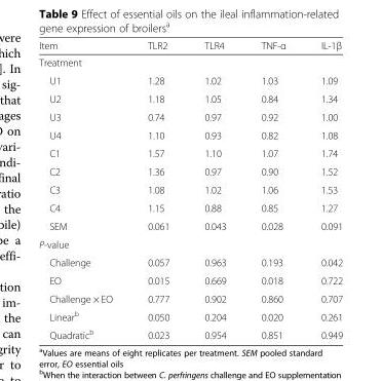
<table><thead><tr><td>Item</td><td>TLR2</td><td>TLR4</td><td>TNF-α</td><td>IL-1β</td></tr></thead><tbody><tr><td colspan="5">Treatment</td></tr><tr><td>U1</td><td>1.28</td><td>1.02</td><td>1.03</td><td>1.09</td></tr><tr><td>U2</td><td>1.18</td><td>1.05</td><td>0.84</td><td>1.34</td></tr><tr><td>U3</td><td>0.74</td><td>0.97</td><td>0.92</td><td>1.00</td></tr><tr><td>U4</td><td>1.10</td><td>0.93</td><td>0.82</td><td>1.08</td></tr><tr><td>C1</td><td>1.57</td><td>1.10</td><td>1.07</td><td>1.74</td></tr><tr><td>C2</td><td>1.36</td><td>0.97</td><td>0.90</td><td>1.52</td></tr><tr><td>C3</td><td>1.08</td><td>1.02</td><td>1.06</td><td>1.53</td></tr><tr><td>C4</td><td>1.15</td><td>0.88</td><td>0.85</td><td>1.27</td></tr><tr><td>SEM</td><td>0.061</td><td>0.043</td><td>0.028</td><td>0.091</td></tr><tr><td colspan="5">P-value</td></tr><tr><td>Challenge</td><td>0.057</td><td>0.963</td><td>0.193</td><td>0.042</td></tr><tr><td>EO</td><td>0.015</td><td>0.669</td><td>0.018</td><td>0.722</td></tr><tr><td>Challenge × EO</td><td>0.777</td><td>0.902</td><td>0.860</td><td>0.707</td></tr><tr><td>Linear<sup>b</sup></td><td>0.050</td><td>0.204</td><td>0.020</td><td>0.261</td></tr><tr><td>Quadratic<sup>b</sup></td><td>0.023</td><td>0.954</td><td>0.851</td><td>0.949</td></tr></tbody></table>